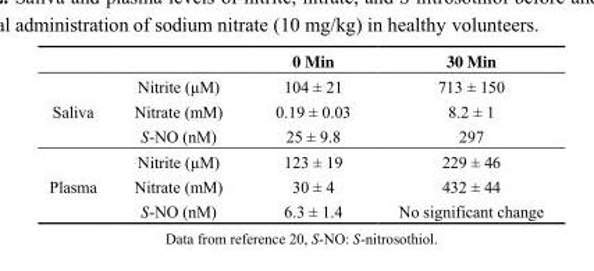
<table><thead><tr><td></td><td></td><td>0 Min</td><td>30 Min</td></tr></thead><tbody><tr><td rowspan="3">Saliva</td><td>Nitrite (μM)</td><td>104 ± 21</td><td>713 ± 150</td></tr><tr><td>Nitrate (mM)</td><td>0.19 ± 0.03</td><td>8.2 ± 1</td></tr><tr><td>S-NO (nM)</td><td>25 ± 9.8</td><td>297</td></tr><tr><td rowspan="3">Plasma</td><td>Nitrite (μM)</td><td>123 ± 19</td><td>229 ± 46</td></tr><tr><td>Nitrate (mM)</td><td>30 ± 4</td><td>432 ± 44</td></tr><tr><td>S-NO (nM)</td><td>6.3 ± 1.4</td><td>No significant change</td></tr></tbody></table>